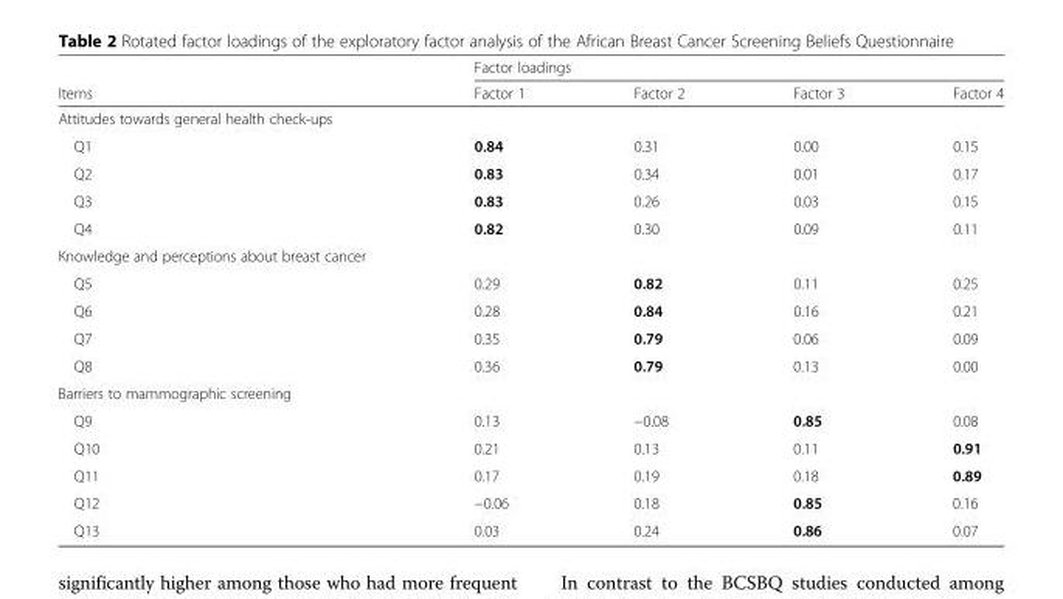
<table><thead><tr><td rowspan="2">Items</td><td colspan="4">Factor loadings</td></tr><tr><td>Factor 1</td><td>Factor 2</td><td>Factor 3</td><td>Factor 4</td></tr></thead><tbody><tr><td colspan="5">Attitudes towards general health check-ups</td></tr><tr><td>Q1</td><td>0.84</td><td>0.31</td><td>0.00</td><td>0.15</td></tr><tr><td>Q2</td><td>0.83</td><td>0.34</td><td>0.01</td><td>0.17</td></tr><tr><td>Q3</td><td>0.83</td><td>0.26</td><td>0.03</td><td>0.15</td></tr><tr><td>Q4</td><td>0.82</td><td>0.30</td><td>0.09</td><td>0.11</td></tr><tr><td colspan="5">Knowledge and perceptions about breast cancer</td></tr><tr><td>Q5</td><td>0.29</td><td>0.82</td><td>0.11</td><td>0.25</td></tr><tr><td>Q6</td><td>0.28</td><td>0.84</td><td>0.16</td><td>0.21</td></tr><tr><td>Q7</td><td>0.35</td><td>0.79</td><td>0.06</td><td>0.09</td></tr><tr><td>Q8</td><td>0.36</td><td>0.79</td><td>0.13</td><td>0.00</td></tr><tr><td colspan="5">Barriers to mammographic screening</td></tr><tr><td>Q9</td><td>0.13</td><td>−0.08</td><td>0.85</td><td>0.08</td></tr><tr><td>Q10</td><td>0.21</td><td>0.13</td><td>0.11</td><td>0.91</td></tr><tr><td>Q11</td><td>0.17</td><td>0.19</td><td>0.18</td><td>0.89</td></tr><tr><td>Q12</td><td>−0.06</td><td>0.18</td><td>0.85</td><td>0.16</td></tr><tr><td>Q13</td><td>0.03</td><td>0.24</td><td>0.86</td><td>0.07</td></tr></tbody></table>